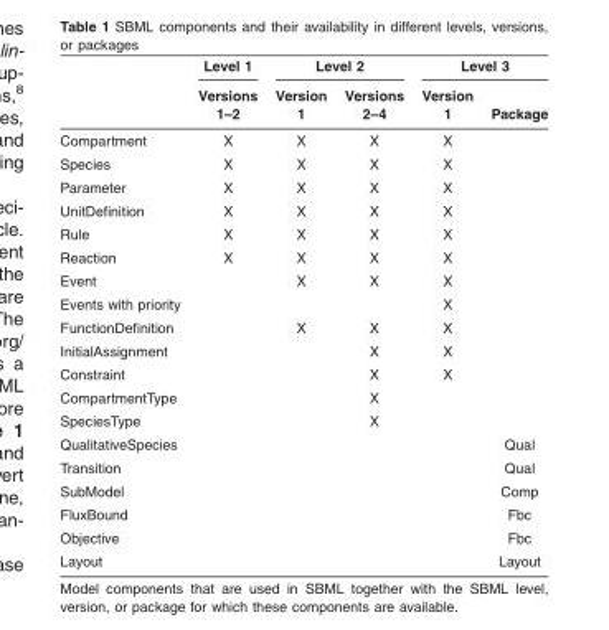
<table><thead><tr><td rowspan="2"></td><td rowspan="2">Level 1 Versions 1–2</td><td colspan="2">Level 2</td><td colspan="2">Level 3</td></tr><tr><td>Version 1</td><td>Versions 2–4</td><td>Version 1</td><td>Package</td></tr></thead><tbody><tr><td>Compartment</td><td>X</td><td>X</td><td>X</td><td>X</td><td></td></tr><tr><td>Species</td><td>X</td><td>X</td><td>X</td><td>X</td><td></td></tr><tr><td>Parameter</td><td>X</td><td>X</td><td>X</td><td>X</td><td></td></tr><tr><td>UnitDefinition</td><td>X</td><td>X</td><td>X</td><td>X</td><td></td></tr><tr><td>Rule</td><td>X</td><td>X</td><td>X</td><td>X</td><td></td></tr><tr><td>Reaction</td><td>X</td><td>X</td><td>X</td><td>X</td><td></td></tr><tr><td>Event</td><td></td><td>X</td><td>X</td><td>X</td><td></td></tr><tr><td>Events with priority</td><td></td><td></td><td></td><td>X</td><td></td></tr><tr><td>FunctionDefinition</td><td></td><td>X</td><td>X</td><td>X</td><td></td></tr><tr><td>InitialAssignment</td><td></td><td></td><td>X</td><td>X</td><td></td></tr><tr><td>Constraint</td><td></td><td></td><td>X</td><td>X</td><td></td></tr><tr><td>CompartmentType</td><td></td><td></td><td>X</td><td></td><td></td></tr><tr><td>SpeciesType</td><td></td><td></td><td>X</td><td></td><td></td></tr><tr><td>QualitativeSpecies</td><td></td><td></td><td></td><td></td><td>Qual</td></tr><tr><td>Transition</td><td></td><td></td><td></td><td></td><td>Qual</td></tr><tr><td>SubModel</td><td></td><td></td><td></td><td></td><td>Comp</td></tr><tr><td>FluxBound</td><td></td><td></td><td></td><td></td><td>Fbc</td></tr><tr><td>Objective</td><td></td><td></td><td></td><td></td><td>Fbc</td></tr><tr><td>Layout</td><td></td><td></td><td></td><td></td><td>Layout</td></tr></tbody></table>